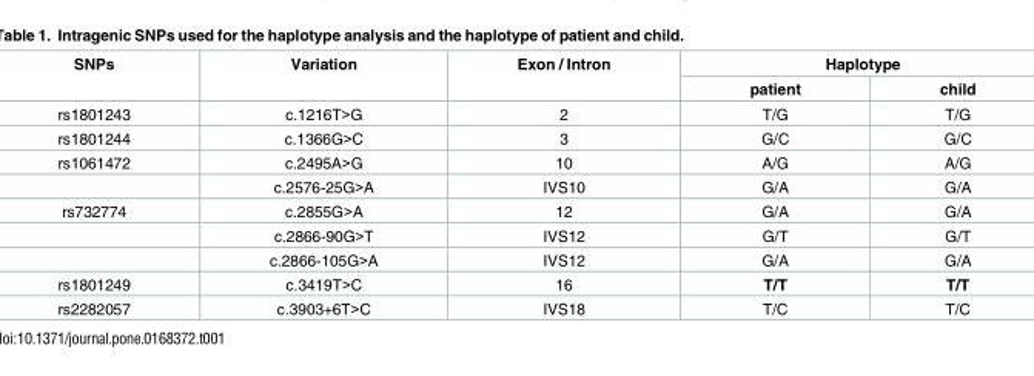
<table><thead><tr><td rowspan="2">SNPs</td><td rowspan="2">Variation</td><td rowspan="2">Exon / Intron</td><td colspan="2">Haplotype</td></tr><tr><td>patient</td><td>child</td></tr></thead><tbody><tr><td>rs1801243</td><td>c.1216T&gt;G</td><td>2</td><td>T/G</td><td>T/G</td></tr><tr><td>rs1801244</td><td>c.1366G&gt;C</td><td>3</td><td>G/C</td><td>G/C</td></tr><tr><td rowspan="2">rs1061472</td><td>c.2495A&gt;G</td><td>10</td><td>A/G</td><td>A/G</td></tr><tr><td>c.2576-25G&gt;A</td><td>IVS10</td><td>G/A</td><td>G/A</td></tr><tr><td rowspan="3">rs732774</td><td>c.2855G&gt;A</td><td>12</td><td>G/A</td><td>G/A</td></tr><tr><td>c.2866-90G&gt;T</td><td>IVS12</td><td>G/T</td><td>G/T</td></tr><tr><td>c.2866-105G&gt;A</td><td>IVS12</td><td>G/A</td><td>G/A</td></tr><tr><td>rs1801249</td><td>c.3419T&gt;C</td><td>16</td><td>T/T</td><td>T/T</td></tr><tr><td>rs2282057</td><td>c.3903+6T&gt;C</td><td>IVS18</td><td>T/C</td><td>T/C</td></tr></tbody></table>